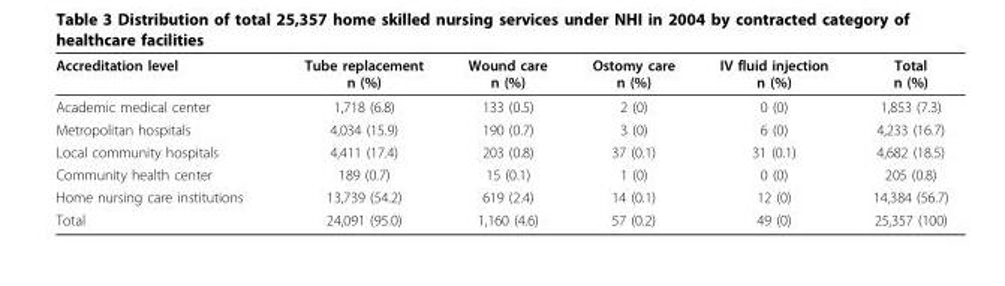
<table><thead><tr><td>Accreditation level</td><td>Tube replacement n (%)</td><td>Wound care n (%)</td><td>Ostomy care n (%)</td><td>IV fluid injection n (%)</td><td>Total n (%)</td></tr></thead><tbody><tr><td>Academic medical center</td><td>1,718 (6.8)</td><td>133 (0.5)</td><td>2 (0)</td><td>0 (0)</td><td>1,853 (7.3)</td></tr><tr><td>Metropolitan hospitals</td><td>4,034 (15.9)</td><td>190 (0.7)</td><td>3 (0)</td><td>6 (0)</td><td>4,233 (16.7)</td></tr><tr><td>Local community hospitals</td><td>4,411 (17.4)</td><td>203 (0.8)</td><td>37 (0.1)</td><td>31 (0.1)</td><td>4,682 (18.5)</td></tr><tr><td>Community health center</td><td>189 (0.7)</td><td>15 (0.1)</td><td>1 (0)</td><td>0 (0)</td><td>205 (0.8)</td></tr><tr><td>Home nursing care institutions</td><td>13,739 (54.2)</td><td>619 (2.4)</td><td>14 (0.1)</td><td>12 (0)</td><td>14,384 (56.7)</td></tr><tr><td>Total</td><td>24,091 (95.0)</td><td>1,160 (4.6)</td><td>57 (0.2)</td><td>49 (0)</td><td>25,357 (100)</td></tr></tbody></table>